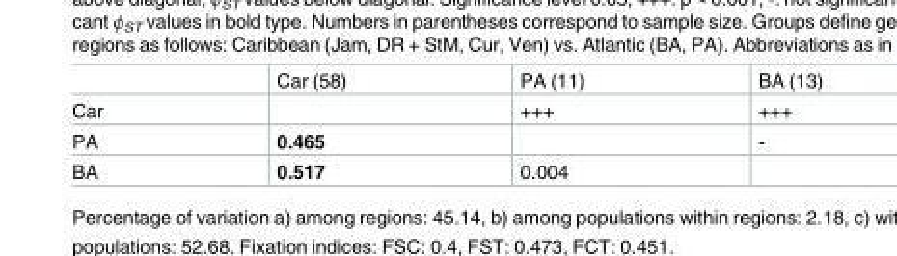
<table><thead><tr><td></td><td>Car (58)</td><td>PA (11)</td><td>BA (13)</td></tr></thead><tbody><tr><td>Car</td><td></td><td>+++</td><td>+++</td></tr><tr><td>PA</td><td>0.465</td><td></td><td>-</td></tr><tr><td>BA</td><td>0.517</td><td>0.004</td><td></td></tr></tbody></table>